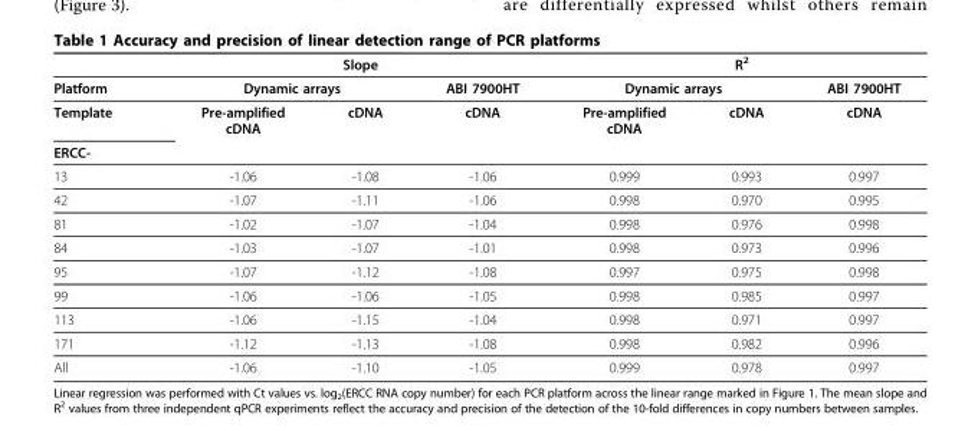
<table><thead><tr><td rowspan="3">Platform Template</td><td colspan="3">Slope</td><td colspan="3">R2</td></tr><tr><td colspan="2">Dynamic arrays</td><td rowspan="2">ABI 7900HT cDNA</td><td colspan="2">Dynamic arrays</td><td rowspan="2">ABI 7900HT cDNA</td></tr><tr><td>Pre-amplified cDNA</td><td>cDNA</td><td>Pre-amplified cDNA</td><td>cDNA</td></tr></thead><tbody><tr><td colspan="7">ERCC-</td></tr><tr><td>13</td><td>-1.06</td><td>-1.08</td><td>-1.06</td><td>0.999</td><td>0.993</td><td>0.997</td></tr><tr><td>42</td><td>-1.07</td><td>-1.11</td><td>-1.06</td><td>0.998</td><td>0.970</td><td>0.995</td></tr><tr><td>81</td><td>-1.02</td><td>-1.07</td><td>-1.04</td><td>0.998</td><td>0.976</td><td>0.998</td></tr><tr><td>84</td><td>-1.03</td><td>-1.07</td><td>-1.01</td><td>0.998</td><td>0.973</td><td>0.996</td></tr><tr><td>95</td><td>-1.07</td><td>-1.12</td><td>-1.08</td><td>0.997</td><td>0.975</td><td>0.998</td></tr><tr><td>99</td><td>-1.06</td><td>-1.06</td><td>-1.05</td><td>0.998</td><td>0.985</td><td>0.997</td></tr><tr><td>113</td><td>-1.06</td><td>-1.15</td><td>-1.04</td><td>0.998</td><td>0.971</td><td>0.997</td></tr><tr><td>171</td><td>-1.12</td><td>-1.13</td><td>-1.08</td><td>0.998</td><td>0.982</td><td>0.996</td></tr><tr><td>All</td><td>-1.06</td><td>-1.10</td><td>-1.05</td><td>0.999</td><td>0.978</td><td>0.997</td></tr></tbody></table>